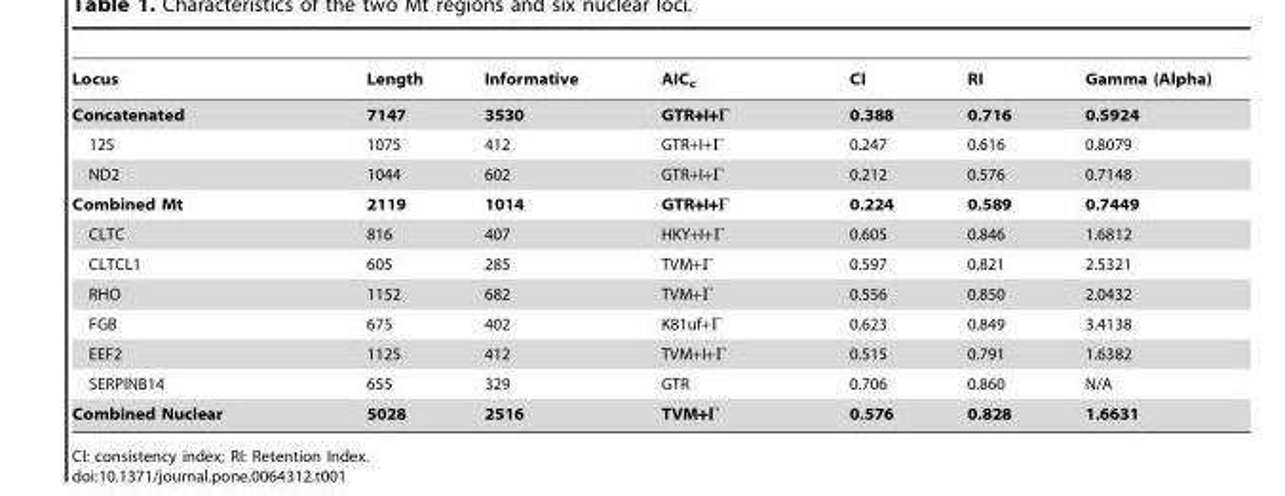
<table><thead><tr><td>Locus</td><td>Length</td><td>Informative</td><td>AIC<sub>c</sub></td><td>CI</td><td>RI</td><td>Gamma (Alpha)</td></tr></thead><tbody><tr><td>Concatenated</td><td>7147</td><td>3530</td><td>GTR+I+Γ</td><td>0.388</td><td>0.716</td><td>0.5924</td></tr><tr><td>12S</td><td>1075</td><td>412</td><td>GTR+I+Γ</td><td>0.247</td><td>0.616</td><td>0.8079</td></tr><tr><td>ND2</td><td>1044</td><td>602</td><td>GTR+I+Γ</td><td>0.212</td><td>0.576</td><td>0.7148</td></tr><tr><td>Combined Mt</td><td>2119</td><td>1014</td><td>GTR+I+Γ</td><td>0.224</td><td>0.589</td><td>0.7449</td></tr><tr><td>CLTC</td><td>816</td><td>407</td><td>HKY+I+Γ</td><td>0.605</td><td>0.846</td><td>1.6812</td></tr><tr><td>CLTCL1</td><td>605</td><td>285</td><td>TVM+Γ</td><td>0.597</td><td>0.821</td><td>2.5321</td></tr><tr><td>RHO</td><td>1152</td><td>682</td><td>TVM+Γ</td><td>0.556</td><td>0.850</td><td>2.0432</td></tr><tr><td>FGB</td><td>675</td><td>402</td><td>K81uf+Γ</td><td>0.623</td><td>0.849</td><td>3.4138</td></tr><tr><td>EEF2</td><td>1125</td><td>412</td><td>TVM+I+Γ</td><td>0.515</td><td>0.791</td><td>1.6382</td></tr><tr><td>SERPINB14</td><td>655</td><td>329</td><td>GTR</td><td>0.706</td><td>0.860</td><td>N/A</td></tr><tr><td>Combined Nuclear</td><td>5028</td><td>2516</td><td>TVM+Γ</td><td>0.576</td><td>0.828</td><td>1.6631</td></tr></tbody></table>